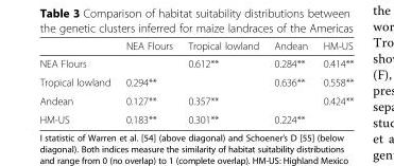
<table><thead><tr><td></td><td>NEA Flours</td><td>Tropical lowland</td><td>Andean</td><td>HM-US</td></tr></thead><tbody><tr><td>NEA Flours</td><td></td><td>0.612**</td><td>0.284**</td><td>0.414**</td></tr><tr><td>Tropical lowland</td><td>0.294**</td><td></td><td>0.636**</td><td>0.558**</td></tr><tr><td>Andean</td><td>0.127**</td><td>0.357**</td><td></td><td>0.424**</td></tr><tr><td>HM-US</td><td>0.183**</td><td>0.301**</td><td>0.224**</td><td></td></tr></tbody></table>